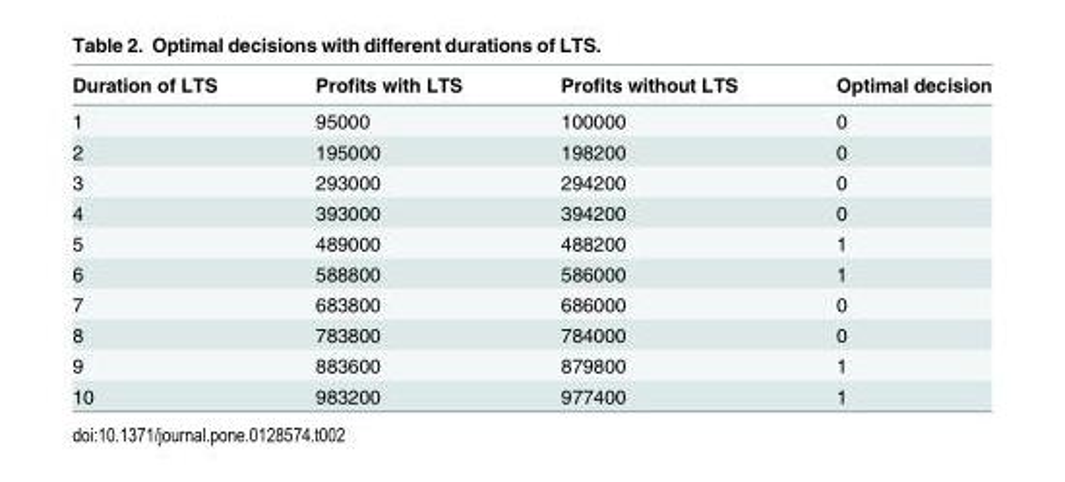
<table><thead><tr><td>Duration of LTS</td><td>Profits with LTS</td><td>Profits without LTS</td><td>Optimal decision</td></tr></thead><tbody><tr><td>1</td><td>95000</td><td>100000</td><td>0</td></tr><tr><td>2</td><td>195000</td><td>198200</td><td>0</td></tr><tr><td>3</td><td>293000</td><td>294200</td><td>0</td></tr><tr><td>4</td><td>393000</td><td>394200</td><td>0</td></tr><tr><td>5</td><td>489000</td><td>488200</td><td>1</td></tr><tr><td>6</td><td>588800</td><td>586000</td><td>1</td></tr><tr><td>7</td><td>683800</td><td>686000</td><td>0</td></tr><tr><td>8</td><td>783800</td><td>784000</td><td>0</td></tr><tr><td>9</td><td>883600</td><td>879800</td><td>1</td></tr><tr><td>10</td><td>983200</td><td>977400</td><td>1</td></tr></tbody></table>